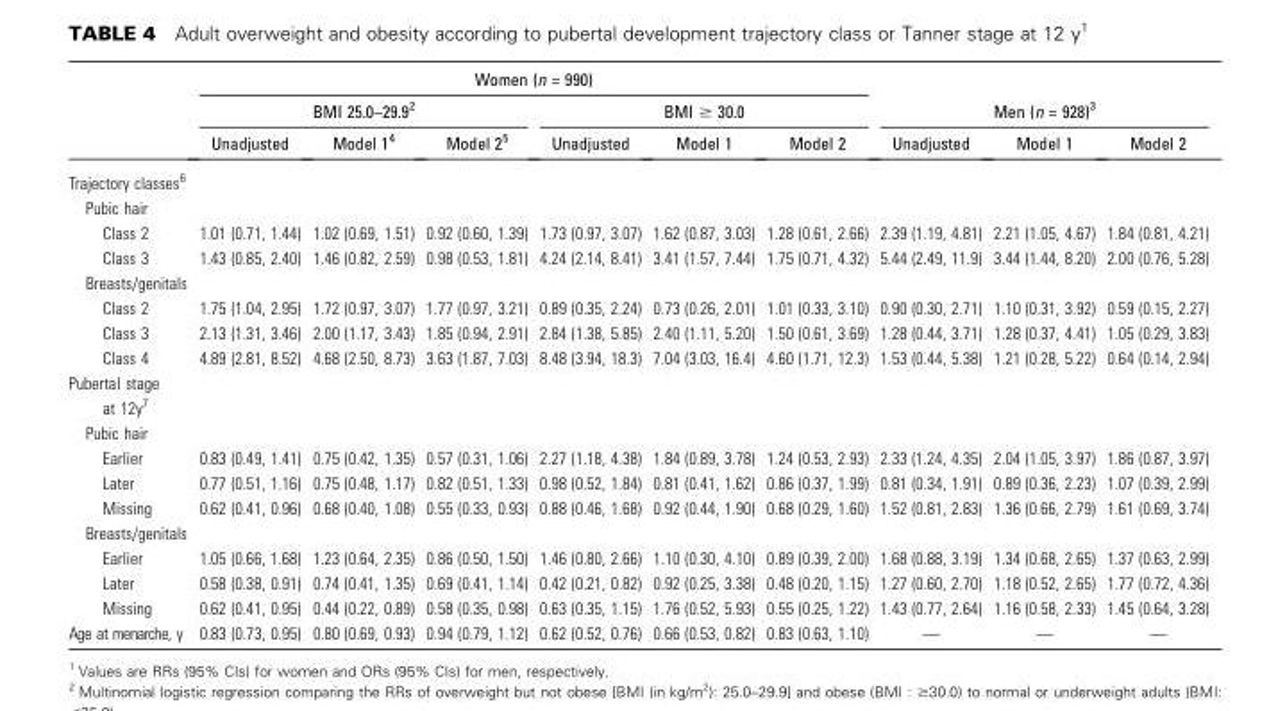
<table><thead><tr><td rowspan="3"></td><td colspan="6">Women (n = 990)</td><td></td><td></td><td></td></tr><tr><td colspan="3">BMI 25.0–29.9<sup>2</sup></td><td colspan="3">BMI ≥ 30.0</td><td colspan="3">Men (n = 928)<sup>3</sup></td></tr><tr><td>Unadjusted</td><td>Model 1<sup>4</sup></td><td>Model 2<sup>5</sup></td><td>Unadjusted</td><td>Model 1</td><td>Model 2</td><td>Unadjusted</td><td>Model 1</td><td>Model 2</td></tr></thead><tbody><tr><td colspan="10">Trajectory classes<sup>6</sup></td></tr><tr><td colspan="10">Pubic hair</td></tr><tr><td>Class 2</td><td>1.01 (0.71, 1.44)</td><td>1.02 (0.69, 1.51)</td><td>0.92 (0.60, 1.39)</td><td>1.73 (0.97, 3.07)</td><td>1.62 (0.87, 3.03)</td><td>1.28 (0.61, 2.66)</td><td>2.39 (1.19, 4.81)</td><td>2.21 (1.05, 4.67)</td><td>1.84 (0.81, 4.21)</td></tr><tr><td>Class 3</td><td>1.43 (0.85, 2.40)</td><td>1.46 (0.82, 2.59)</td><td>0.98 (0.53, 1.81)</td><td>4.24 (2.14, 8.41)</td><td>3.41 (1.57, 7.44)</td><td>1.75 (0.71, 4.32)</td><td>5.44 (2.49, 11.9)</td><td>3.44 (1.44, 8.20)</td><td>2.00 (0.76, 5.28)</td></tr><tr><td colspan="10">Breasts/genitals</td></tr><tr><td>Class 2</td><td>1.75 (1.04, 2.95)</td><td>1.72 (0.97, 3.07)</td><td>1.77 (0.97, 3.21)</td><td>0.89 (0.35, 2.24)</td><td>0.73 (0.26, 2.01)</td><td>1.01 (0.33, 3.10)</td><td>0.90 (0.30, 2.71)</td><td>1.10 (0.31, 3.92)</td><td>0.59 (0.15, 2.27)</td></tr><tr><td>Class 3</td><td>2.13 (1.31, 3.46)</td><td>2.00 (1.17, 3.43)</td><td>1.85 (0.94, 2.91)</td><td>2.84 (1.38, 5.85)</td><td>2.40 (1.11, 5.20)</td><td>1.50 (0.61, 3.69)</td><td>1.28 (0.44, 3.71)</td><td>1.28 (0.37, 4.41)</td><td>1.05 (0.29, 3.83)</td></tr><tr><td>Class 4</td><td>4.89 (2.81, 8.52)</td><td>4.68 (2.50, 8.73)</td><td>3.63 (1.87, 7.03)</td><td>8.48 (3.94, 18.3)</td><td>7.04 (3.03, 16.4)</td><td>4.60 (1.71, 12.3)</td><td>1.53 (0.44, 5.38)</td><td>1.21 (0.28, 5.22)</td><td>0.64 (0.14, 2.94)</td></tr><tr><td colspan="10">Pubertal stage at 12y<sup>7</sup></td></tr><tr><td colspan="10">Pubic hair</td></tr><tr><td>Earlier</td><td>0.83 (0.49, 1.41)</td><td>0.75 (0.42, 1.35)</td><td>0.57 (0.31, 1.06)</td><td>2.27 (1.18, 4.38)</td><td>1.84 (0.89, 3.78)</td><td>1.24 (0.53, 2.93)</td><td>2.33 (1.24, 4.35)</td><td>2.04 (1.05, 3.97)</td><td>1.86 (0.87, 3.97)</td></tr><tr><td>Later</td><td>0.77 (0.51, 1.16)</td><td>0.75 (0.48, 1.17)</td><td>0.82 (0.51, 1.33)</td><td>0.98 (0.52, 1.84)</td><td>0.81 (0.41, 1.62)</td><td>0.86 (0.37, 1.99)</td><td>0.81 (0.34, 1.91)</td><td>0.89 (0.36, 2.23)</td><td>1.07 (0.39, 2.99)</td></tr><tr><td>Missing</td><td>0.62 (0.41, 0.96)</td><td>0.68 (0.40, 1.08)</td><td>0.55 (0.33, 0.93)</td><td>0.88 (0.46, 1.68)</td><td>0.92 (0.44, 1.90)</td><td>0.68 (0.29, 1.60)</td><td>1.52 (0.81, 2.83)</td><td>1.36 (0.66, 2.79)</td><td>1.61 (0.69, 3.74)</td></tr><tr><td colspan="10">Breasts/genitals</td></tr><tr><td>Earlier</td><td>1.05 (0.66, 1.68)</td><td>1.23 (0.64, 2.35)</td><td>0.86 (0.50, 1.50)</td><td>1.46 (0.80, 2.66)</td><td>1.10 (0.30, 4.10)</td><td>0.89 (0.39, 2.00)</td><td>1.68 (0.88, 3.19)</td><td>1.34 (0.68, 2.65)</td><td>1.37 (0.63, 2.99)</td></tr><tr><td>Later</td><td>0.58 (0.38, 0.91)</td><td>0.74 (0.41, 1.35)</td><td>0.69 (0.41, 1.14)</td><td>0.42 (0.21, 0.82)</td><td>0.92 (0.25, 3.38)</td><td>0.48 (0.20, 1.15)</td><td>1.27 (0.60, 2.70)</td><td>1.18 (0.52, 2.65)</td><td>1.77 (0.72, 4.36)</td></tr><tr><td>Missing</td><td>0.62 (0.41, 0.95)</td><td>0.44 (0.22, 0.89)</td><td>0.58 (0.35, 0.98)</td><td>0.63 (0.35, 1.15)</td><td>1.76 (0.52, 5.93)</td><td>0.55 (0.25, 1.22)</td><td>1.43 (0.77, 2.64)</td><td>1.16 (0.58, 2.33)</td><td>1.45 (0.64, 3.28)</td></tr><tr><td>Age at menarche, y</td><td>0.83 (0.73, 0.95)</td><td>0.80 (0.69, 0.93)</td><td>0.94 (0.79, 1.12)</td><td>0.62 (0.52, 0.76)</td><td>0.66 (0.53, 0.82)</td><td>0.83 (0.63, 1.10)</td><td>—</td><td>—</td><td>—</td></tr></tbody></table>